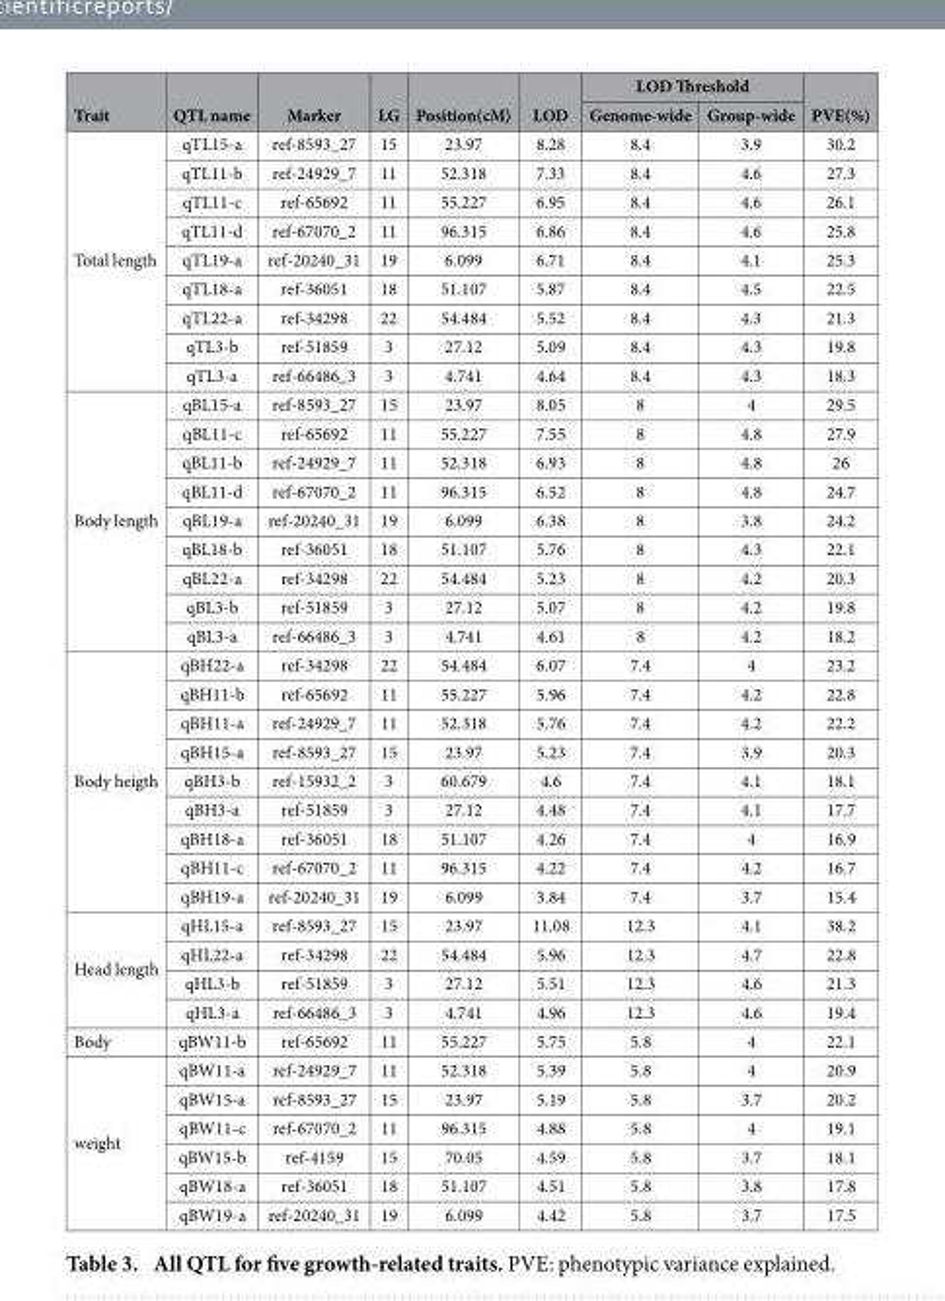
<table><thead><tr><td rowspan="2">Trait</td><td rowspan="2">QTL name</td><td rowspan="2">Marker</td><td rowspan="2">LG</td><td rowspan="2">Position(cM)</td><td rowspan="2">LOD</td><td colspan="2">LOD Threshold</td><td rowspan="2">PVE(%)</td></tr><tr><td>Genome-wide</td><td>Group-wide</td></tr></thead><tbody><tr><td rowspan="9">Total length</td><td>qTL15-a</td><td>ref-8593_27</td><td>15</td><td>23.97</td><td>8.28</td><td>8.4</td><td>3.9</td><td>30.2</td></tr><tr><td>qTL11-b</td><td>ref-24929_7</td><td>11</td><td>52.318</td><td>7.33</td><td>8.4</td><td>4.6</td><td>27.3</td></tr><tr><td>qTL11-c</td><td>ref-65692</td><td>11</td><td>55.227</td><td>6.95</td><td>8.4</td><td>4.6</td><td>26.1</td></tr><tr><td>qTL11-d</td><td>ref-67070_2</td><td>11</td><td>96.315</td><td>6.86</td><td>8.4</td><td>4.6</td><td>25.8</td></tr><tr><td>qTL19-a</td><td>ref-20240_31</td><td>19</td><td>6.099</td><td>6.71</td><td>8.4</td><td>4.1</td><td>25.3</td></tr><tr><td>qTL18-a</td><td>ref-36051</td><td>18</td><td>51.107</td><td>5.87</td><td>8.4</td><td>4.5</td><td>22.5</td></tr><tr><td>qTL22-a</td><td>ref-34298</td><td>22</td><td>54.484</td><td>5.52</td><td>8.4</td><td>4.3</td><td>21.3</td></tr><tr><td>qTL3-b</td><td>ref-51859</td><td>3</td><td>27.12</td><td>5.09</td><td>8.4</td><td>4.3</td><td>19.8</td></tr><tr><td>qTL3-a</td><td>ref-66486_3</td><td>3</td><td>4.741</td><td>4.64</td><td>8.4</td><td>4.3</td><td>18.3</td></tr><tr><td rowspan="9">Body length</td><td>qBL15-a</td><td>ref-8593_27</td><td>15</td><td>23.97</td><td>8.05</td><td>8</td><td>4</td><td>29.5</td></tr><tr><td>qBL11-c</td><td>ref-65692</td><td>11</td><td>55.227</td><td>7.55</td><td>8</td><td>4.8</td><td>27.9</td></tr><tr><td>qBL11-b</td><td>ref-24929_7</td><td>11</td><td>52.318</td><td>6.93</td><td>8</td><td>4.8</td><td>26</td></tr><tr><td>qBL11-d</td><td>ref-67070_2</td><td>11</td><td>96.315</td><td>6.52</td><td>8</td><td>4.8</td><td>24.7</td></tr><tr><td>qBL19-a</td><td>ref-20240_31</td><td>19</td><td>6.099</td><td>6.38</td><td>8</td><td>3.8</td><td>24.2</td></tr><tr><td>qBL18-b</td><td>ref-36051</td><td>18</td><td>51.107</td><td>5.76</td><td>8</td><td>4.3</td><td>22.1</td></tr><tr><td>qBL22-a</td><td>ref-34298</td><td>22</td><td>54.484</td><td>5.23</td><td>8</td><td>4.2</td><td>20.3</td></tr><tr><td>qBL3-b</td><td>ref-51859</td><td>3</td><td>27.12</td><td>5.07</td><td>8</td><td>4.2</td><td>19.8</td></tr><tr><td>qBL3-a</td><td>ref-66486_3</td><td>3</td><td>4.741</td><td>4.61</td><td>8</td><td>4.2</td><td>18.2</td></tr><tr><td rowspan="9">Body heigth</td><td>qBH22-a</td><td>ref-34298</td><td>22</td><td>54.484</td><td>6.07</td><td>7.4</td><td>4</td><td>23.2</td></tr><tr><td>qBH11-b</td><td>ref-65692</td><td>11</td><td>55.227</td><td>5.96</td><td>7.4</td><td>4.2</td><td>22.8</td></tr><tr><td>qBH11-a</td><td>ref-24929_7</td><td>11</td><td>52.318</td><td>5.76</td><td>7.4</td><td>4.2</td><td>22.2</td></tr><tr><td>qBH15-a</td><td>ref-8593_27</td><td>15</td><td>23.97</td><td>5.23</td><td>7.4</td><td>3.9</td><td>20.3</td></tr><tr><td>qBH3-b</td><td>ref-15932_2</td><td>3</td><td>60.679</td><td>4.6</td><td>7.4</td><td>4.1</td><td>18.1</td></tr><tr><td>qBH3-a</td><td>ref-51859</td><td>3</td><td>27.12</td><td>4.48</td><td>7.4</td><td>4.1</td><td>17.7</td></tr><tr><td>qBH18-a</td><td>ref-36051</td><td>18</td><td>51.107</td><td>4.26</td><td>7.4</td><td>4</td><td>16.9</td></tr><tr><td>qBH11-c</td><td>ref-67070_2</td><td>11</td><td>96.315</td><td>4.22</td><td>7.4</td><td>4.2</td><td>16.7</td></tr><tr><td>qBH19-a</td><td>ref-20240_31</td><td>19</td><td>6.099</td><td>3.84</td><td>7.4</td><td>3.7</td><td>15.4</td></tr><tr><td rowspan="4">Head length</td><td>qHL15-a</td><td>ref-8593_27</td><td>15</td><td>23.97</td><td>11.08</td><td>12.3</td><td>4.1</td><td>38.2</td></tr><tr><td>qHL22-a</td><td>ref-34298</td><td>22</td><td>54.484</td><td>5.96</td><td>12.3</td><td>4.7</td><td>22.8</td></tr><tr><td>qHL3-b</td><td>ref-51859</td><td>3</td><td>27.12</td><td>5.51</td><td>12.3</td><td>4.6</td><td>21.3</td></tr><tr><td>qHL3-a</td><td>ref-66486_3</td><td>3</td><td>4.741</td><td>4.96</td><td>12.3</td><td>4.6</td><td>19.4</td></tr><tr><td>Body</td><td>qBW11-b</td><td>ref-65692</td><td>11</td><td>55.227</td><td>5.75</td><td>5.8</td><td>4</td><td>22.1</td></tr><tr><td rowspan="6">weight</td><td>qBW11-a</td><td>ref-24929_7</td><td>11</td><td>52.318</td><td>5.39</td><td>5.8</td><td>4</td><td>20.9</td></tr><tr><td>qBW15-a</td><td>ref-8593_27</td><td>15</td><td>23.97</td><td>5.19</td><td>5.8</td><td>3.7</td><td>20.2</td></tr><tr><td>qBW11-c</td><td>ref-67070_2</td><td>11</td><td>96.315</td><td>4.88</td><td>5.8</td><td>4</td><td>19.1</td></tr><tr><td>qBW15-b</td><td>ref-4159</td><td>15</td><td>70.05</td><td>4.59</td><td>5.8</td><td>3.7</td><td>18.1</td></tr><tr><td>qBW18-a</td><td>ref-36051</td><td>18</td><td>51.107</td><td>4.51</td><td>5.8</td><td>3.8</td><td>17.8</td></tr><tr><td>qBW19-a</td><td>ref-20240_31</td><td>19</td><td>6.099</td><td>4.42</td><td>5.8</td><td>3.7</td><td>17.5</td></tr></tbody></table>